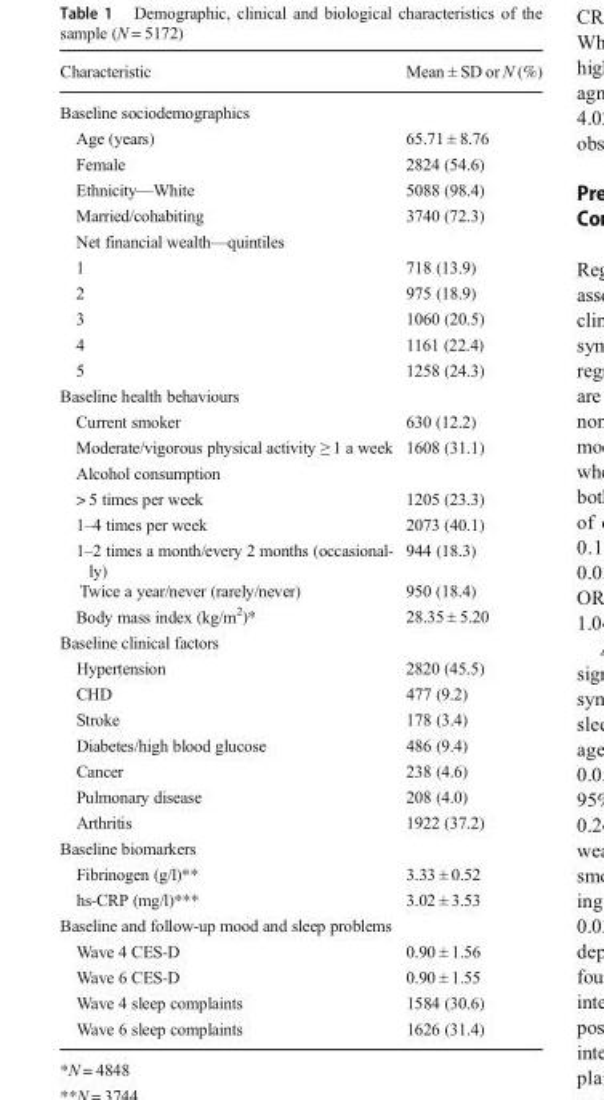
<table><thead><tr><td>Characteristic</td><td>Mean ± SD or N (%)</td></tr></thead><tbody><tr><td colspan="2">Baseline sociodemographics</td></tr><tr><td>Age (years)</td><td>65.71 ± 8.76</td></tr><tr><td>Female</td><td>2824 (54.6)</td></tr><tr><td>Ethnicity—White</td><td>5088 (98.4)</td></tr><tr><td>Married/cohabiting</td><td>3740 (72.3)</td></tr><tr><td colspan="2">Net financial wealth—quintiles</td></tr><tr><td>1</td><td>718 (13.9)</td></tr><tr><td>2</td><td>975 (18.9)</td></tr><tr><td>3</td><td>1060 (20.5)</td></tr><tr><td>4</td><td>1161 (22.4)</td></tr><tr><td>5</td><td>1258 (24.3)</td></tr><tr><td colspan="2">Baseline health behaviours</td></tr><tr><td>Current smoker</td><td>630 (12.2)</td></tr><tr><td>Moderate/vigorous physical activity ≥ 1 a week</td><td>1608 (31.1)</td></tr><tr><td colspan="2">Alcohol consumption</td></tr><tr><td>&gt; 5 times per week</td><td>1205 (23.3)</td></tr><tr><td>1–4 times per week</td><td>2073 (40.1)</td></tr><tr><td>1–2 times a month/every 2 months (occasional- ly)</td><td>944 (18.3)</td></tr><tr><td>Twice a year/never (rarely/never)</td><td>950 (18.4)</td></tr><tr><td>Body mass index (kg/m<sup>2</sup>)*</td><td>28.35 ± 5.20</td></tr><tr><td colspan="2">Baseline clinical factors</td></tr><tr><td>Hypertension</td><td>2820 (45.5)</td></tr><tr><td>CHD</td><td>477 (9.2)</td></tr><tr><td>Stroke</td><td>178 (3.4)</td></tr><tr><td>Diabetes/high blood glucose</td><td>486 (9.4)</td></tr><tr><td>Cancer</td><td>238 (4.6)</td></tr><tr><td>Pulmonary disease</td><td>208 (4.0)</td></tr><tr><td>Arthritis</td><td>1922 (37.2)</td></tr><tr><td colspan="2">Baseline biomarkers</td></tr><tr><td>Fibrinogen (g/l)**</td><td>3.33 ± 0.52</td></tr><tr><td>hs-CRP (mg/l)***</td><td>3.02 ± 3.53</td></tr><tr><td colspan="2">Baseline and follow-up mood and sleep problems</td></tr><tr><td>Wave 4 CES-D</td><td>0.90 ± 1.56</td></tr><tr><td>Wave 6 CES-D</td><td>0.90 ± 1.55</td></tr><tr><td>Wave 4 sleep complaints</td><td>1584 (30.6)</td></tr><tr><td>Wave 6 sleep complaints</td><td>1626 (31.4)</td></tr></tbody></table>